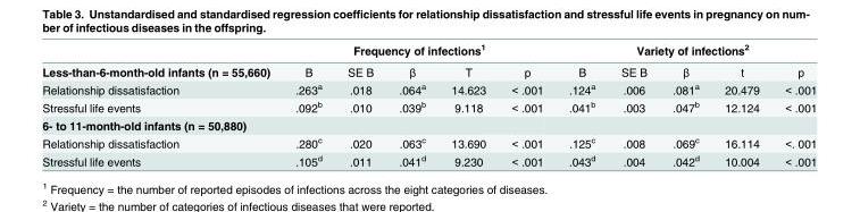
<table><thead><tr><td rowspan="2">Less-than-6-month-old infants (n = 55,660)</td><td colspan="5">Frequency of infections<sup>1</sup></td><td colspan="5">Variety of infections<sup>2</sup></td></tr><tr><td>B</td><td>SE B</td><td>β</td><td>T</td><td>p</td><td>B</td><td>SE B</td><td>β</td><td>t</td><td>p</td></tr></thead><tbody><tr><td>Relationship dissatisfaction</td><td>.263a</td><td>.018</td><td>.064a</td><td>14.623</td><td>&lt; .001</td><td>.124a</td><td>.006</td><td>.081a</td><td>20.479</td><td>&lt; .001</td></tr><tr><td>Stressful life events</td><td>.092b</td><td>.010</td><td>.039b</td><td>9.118</td><td>&lt; .001</td><td>.041b</td><td>.003</td><td>.047b</td><td>12.124</td><td>&lt; .001</td></tr><tr><td colspan="11">6- to 11-month-old infants (n = 50,880)</td></tr><tr><td>Relationship dissatisfaction</td><td>.280c</td><td>.020</td><td>.063c</td><td>13.690</td><td>&lt; .001</td><td>.125c</td><td>.008</td><td>.069c</td><td>16.114</td><td>&lt;. 001</td></tr><tr><td>Stressful life events</td><td>.105d</td><td>.011</td><td>.041d</td><td>9.230</td><td>&lt; .001</td><td>.043d</td><td>.004</td><td>.042d</td><td>10.004</td><td>&lt; .001</td></tr></tbody></table>